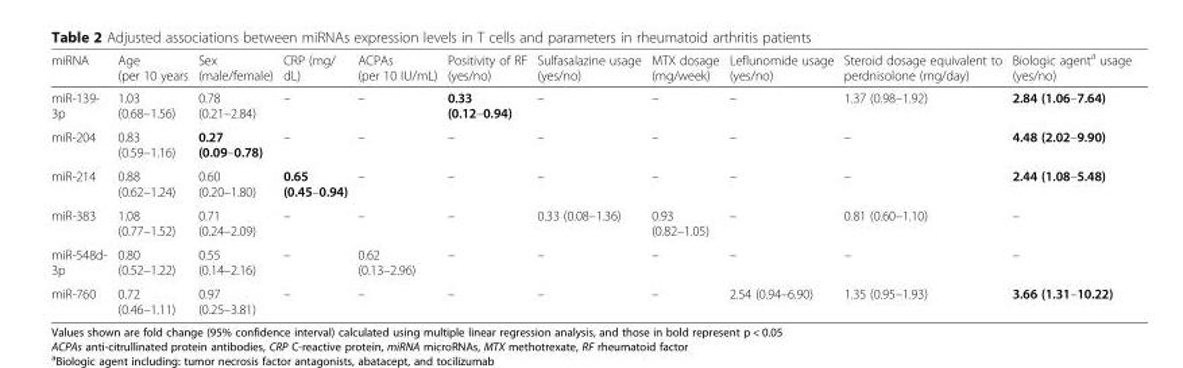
<table><thead><tr><td>miRNA</td><td>Age (per 10 years</td><td>Sex (male/female)</td><td>CRP (mg/ dL)</td><td>ACPAs (per 10 IU/mL)</td><td>Positivity of RF (yes/no)</td><td>Sulfasalazine usage (yes/no)</td><td>MTX dosage (mg/week)</td><td>Leflunomide usage (yes/no)</td><td>Steroid dosage equivalent to perdnisolone (mg/day)</td><td>Biologic agent<sup>a</sup> usage (yes/no)</td></tr></thead><tbody><tr><td>miR-139- 3p</td><td>1.03 (0.68–1.56)</td><td>0.78 (0.21–2.84)</td><td>–</td><td>–</td><td>0.33 (0.12–0.94)</td><td>–</td><td>–</td><td>–</td><td>1.37 (0.98–1.92)</td><td>2.84 (1.06–7.64)</td></tr><tr><td>miR-204</td><td>0.83 (0.59–1.16)</td><td>0.27 (0.09–0.78)</td><td>–</td><td>–</td><td>–</td><td>–</td><td>–</td><td>–</td><td>–</td><td>4.48 (2.02–9.90)</td></tr><tr><td>miR-214</td><td>0.88 (0.62–1.24)</td><td>0.60 (0.20–1.80)</td><td>0.65 (0.45–0.94)</td><td>–</td><td>–</td><td>–</td><td>–</td><td>–</td><td>–</td><td>2.44 (1.08–5.48)</td></tr><tr><td>miR-383</td><td>1.08 (0.77–1.52)</td><td>0.71 (0.24–2.09)</td><td>–</td><td>–</td><td>–</td><td>0.33 (0.08–1.36)</td><td>0.93 (0.82–1.05)</td><td>–</td><td>0.81 (0.60–1.10)</td><td>–</td></tr><tr><td>miR-548d- 3p</td><td>0.80 (0.52–1.22)</td><td>0.55 (0.14–2.16)</td><td>–</td><td>0.62 (0.13–2.96)</td><td>–</td><td>–</td><td>–</td><td>–</td><td>–</td><td>–</td></tr><tr><td>miR-760</td><td>0.72 (0.46–1.11)</td><td>0.97 (0.25–3.81)</td><td>–</td><td>–</td><td>–</td><td>–</td><td>–</td><td>2.54 (0.94–6.90)</td><td>1.35 (0.95–1.93)</td><td>3.66 (1.31–10.22)</td></tr></tbody></table>